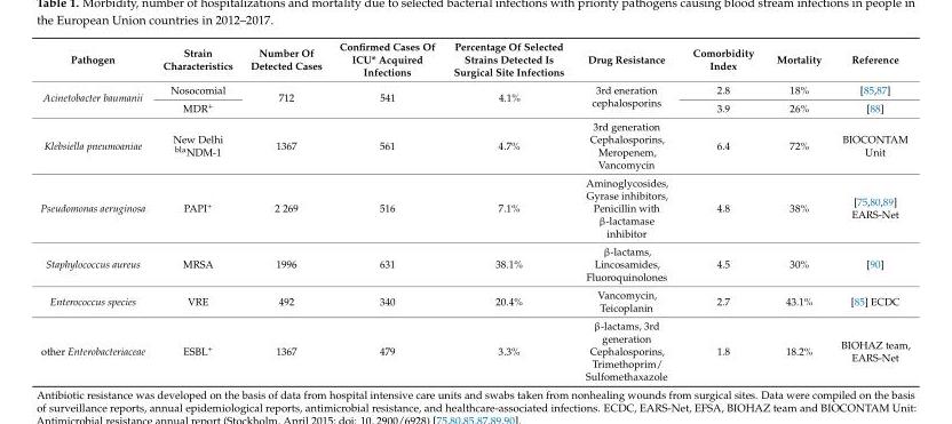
<table><thead><tr><td>Pathogen</td><td>Strain Characteristics</td><td>Number Of Detected Cases</td><td>Confirmed Cases Of ICU* Acquired Infections</td><td>Percentage Of Selected Strains Detected Is Surgical Site Infections</td><td>Drug Resistance</td><td>Comorbidity Index</td><td>Mortality</td><td>Reference</td></tr></thead><tbody><tr><td rowspan="2">Acinetobacter baumanii</td><td>Nosocomial</td><td rowspan="2">712</td><td rowspan="2">541</td><td rowspan="2">4.1%</td><td rowspan="2">3rd eneration cephalosporins</td><td>2.8</td><td>18%</td><td>[85,87]</td></tr><tr><td>MDR<sup>+</sup></td><td>3.9</td><td>26%</td><td>[88]</td></tr><tr><td>Klebsiella pneumoaniae</td><td>New Delhi <sup>bla</sup>NDM-1</td><td>1367</td><td>561</td><td>4.7%</td><td>3rd generation Cephalosporins, Meropenem, Vancomycin</td><td>6.4</td><td>72%</td><td>BIOCONTAM Unit</td></tr><tr><td>Pseudomonas aeruginosa</td><td>PAPI<sup>+</sup></td><td>2 269</td><td>516</td><td>7.1%</td><td>Aminoglycosides, Gyrase inhibitors, Penicillin with β-lactamase inhibitor</td><td>4.8</td><td>38%</td><td>[75,80,89] EARS-Net</td></tr><tr><td>Staphylococcus aureus</td><td>MRSA</td><td>1996</td><td>631</td><td>38.1%</td><td>β-lactams, Lincosamides, Fluoroquinolones</td><td>4.5</td><td>30%</td><td>[90]</td></tr><tr><td>Enterococcus species</td><td>VRE</td><td>492</td><td>340</td><td>20.4%</td><td>Vancomycin, Teicoplanin</td><td>2.7</td><td>43.1%</td><td>[85] ECDC</td></tr><tr><td>other Enterobacteriaceae</td><td>ESBL<sup>+</sup></td><td>1367</td><td>479</td><td>3.3%</td><td>β-lactams, 3rd generation Cephalosporins, Trimethoprim/ Sulfomethaxazole</td><td>1.8</td><td>18.2%</td><td>BIOHAZ team, EARS-Net</td></tr></tbody></table>